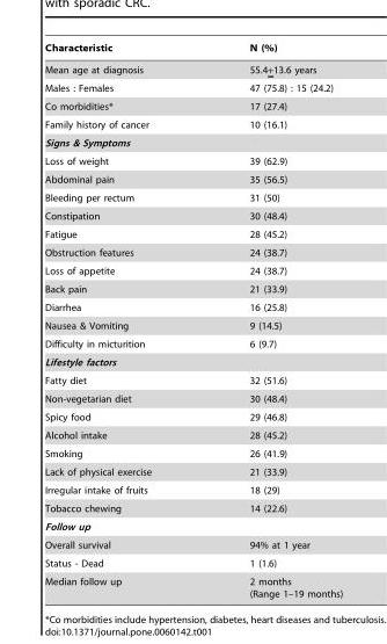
<table><thead><tr><td>Characteristic</td><td>N (%)</td></tr></thead><tbody><tr><td>Mean age at diagnosis</td><td>55.4+13.6 years</td></tr><tr><td>Males : Females</td><td>47 (75.8) : 15 (24.2)</td></tr><tr><td>Co morbidities*</td><td>17 (27.4)</td></tr><tr><td>Family history of cancer</td><td>10 (16.1)</td></tr><tr><td colspan="2">Signs &amp; Symptoms</td></tr><tr><td>Loss of weight</td><td>39 (62.9)</td></tr><tr><td>Abdominal pain</td><td>35 (56.5)</td></tr><tr><td>Bleeding per rectum</td><td>31 (50)</td></tr><tr><td>Constipation</td><td>30 (48.4)</td></tr><tr><td>Fatigue</td><td>28 (45.2)</td></tr><tr><td>Obstruction features</td><td>24 (38.7)</td></tr><tr><td>Loss of appetite</td><td>24 (38.7)</td></tr><tr><td>Back pain</td><td>21 (33.9)</td></tr><tr><td>Diarrhea</td><td>16 (25.8)</td></tr><tr><td>Nausea &amp; Vomiting</td><td>9 (14.5)</td></tr><tr><td>Difficulty in micturition</td><td>6 (9.7)</td></tr><tr><td colspan="2">Lifestyle factors</td></tr><tr><td>Fatty diet</td><td>32 (51.6)</td></tr><tr><td>Non-vegetarian diet</td><td>30 (48.4)</td></tr><tr><td>Spicy food</td><td>29 (46.8)</td></tr><tr><td>Alcohol intake</td><td>28 (45.2)</td></tr><tr><td>Smoking</td><td>26 (41.9)</td></tr><tr><td>Lack of physical exercise</td><td>21 (33.9)</td></tr><tr><td>Irregular intake of fruits</td><td>18 (29)</td></tr><tr><td>Tobacco chewing</td><td>14 (22.6)</td></tr><tr><td colspan="2">Follow up</td></tr><tr><td>Overall survival</td><td>94% at 1 year</td></tr><tr><td>Status - Dead</td><td>1 (1.6)</td></tr><tr><td>Median follow up</td><td>2 months (Range 1–19 months)</td></tr></tbody></table>